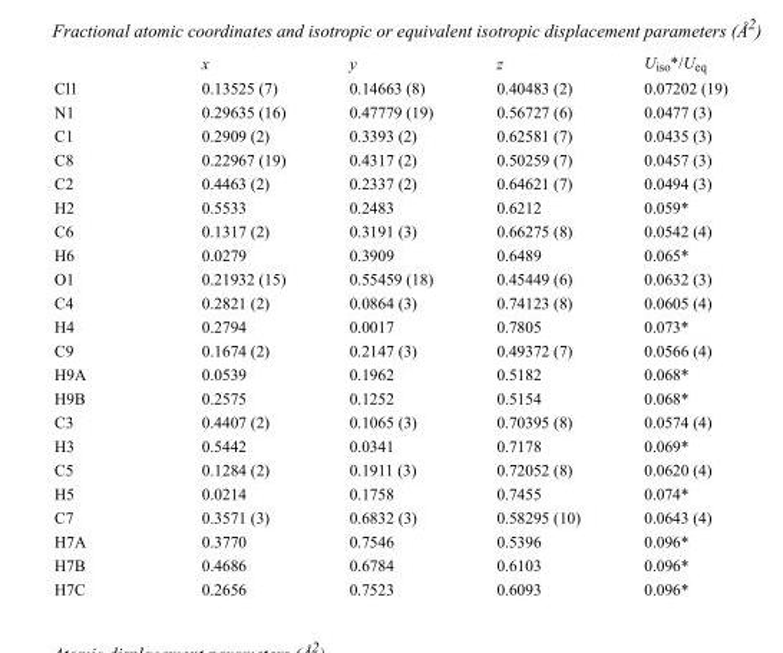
<table><thead><tr><td></td><td>x</td><td>y</td><td>z</td><td>U<sub>iso</sub>*/U<sub>eq</sub></td></tr></thead><tbody><tr><td>Cl1</td><td>0.13525 (7)</td><td>0.14663 (8)</td><td>0.40483 (2)</td><td>0.07202 (19)</td></tr><tr><td>N1</td><td>0.29635 (16)</td><td>0.47779 (19)</td><td>0.56727 (6)</td><td>0.0477 (3)</td></tr><tr><td>C1</td><td>0.2909 (2)</td><td>0.3393 (2)</td><td>0.62581 (7)</td><td>0.0435 (3)</td></tr><tr><td>C8</td><td>0.22967 (19)</td><td>0.4317 (2)</td><td>0.50259 (7)</td><td>0.0457 (3)</td></tr><tr><td>C2</td><td>0.4463 (2)</td><td>0.2337 (2)</td><td>0.64621 (7)</td><td>0.0494 (3)</td></tr><tr><td>H2</td><td>0.5533</td><td>0.2483</td><td>0.6212</td><td>0.059*</td></tr><tr><td>C6</td><td>0.1317 (2)</td><td>0.3191 (3)</td><td>0.66275 (8)</td><td>0.0542 (4)</td></tr><tr><td>H6</td><td>0.0279</td><td>0.3909</td><td>0.6489</td><td>0.065*</td></tr><tr><td>O1</td><td>0.21932 (15)</td><td>0.55459 (18)</td><td>0.45449 (6)</td><td>0.0632 (3)</td></tr><tr><td>C4</td><td>0.2821 (2)</td><td>0.0864 (3)</td><td>0.74123 (8)</td><td>0.0605 (4)</td></tr><tr><td>H4</td><td>0.2794</td><td>0.0017</td><td>0.7805</td><td>0.073*</td></tr><tr><td>C9</td><td>0.1674 (2)</td><td>0.2147 (3)</td><td>0.49372 (7)</td><td>0.0566 (4)</td></tr><tr><td>H9A</td><td>0.0539</td><td>0.1962</td><td>0.5182</td><td>0.068*</td></tr><tr><td>H9B</td><td>0.2575</td><td>0.1252</td><td>0.5154</td><td>0.068*</td></tr><tr><td>C3</td><td>0.4407 (2)</td><td>0.1065 (3)</td><td>0.70395 (8)</td><td>0.0574 (4)</td></tr><tr><td>H3</td><td>0.5442</td><td>0.0341</td><td>0.7178</td><td>0.069*</td></tr><tr><td>C5</td><td>0.1284 (2)</td><td>0.1911 (3)</td><td>0.72052 (8)</td><td>0.0620 (4)</td></tr><tr><td>H5</td><td>0.0214</td><td>0.1758</td><td>0.7455</td><td>0.074*</td></tr><tr><td>C7</td><td>0.3571 (3)</td><td>0.6832 (3)</td><td>0.58295 (10)</td><td>0.0643 (4)</td></tr><tr><td>H7A</td><td>0.3770</td><td>0.7546</td><td>0.5396</td><td>0.096*</td></tr><tr><td>H7B</td><td>0.4686</td><td>0.6784</td><td>0.6103</td><td>0.096*</td></tr><tr><td>H7C</td><td>0.2656</td><td>0.7523</td><td>0.6093</td><td>0.096*</td></tr></tbody></table>